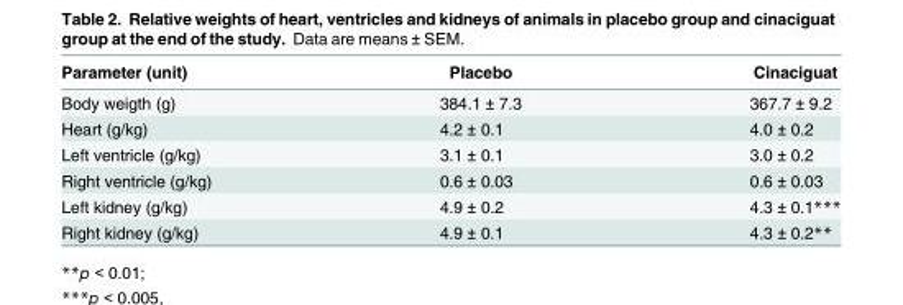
<table><thead><tr><td>Parameter (unit)</td><td>Placebo</td><td>Cinaciguat</td></tr></thead><tbody><tr><td>Body weigth (g)</td><td>384.1 ± 7.3</td><td>367.7 ± 9.2</td></tr><tr><td>Heart (g/kg)</td><td>4.2 ± 0.1</td><td>4.0 ± 0.2</td></tr><tr><td>Left ventricle (g/kg)</td><td>3.1 ± 0.1</td><td>3.0 ± 0.2</td></tr><tr><td>Right ventricle (g/kg)</td><td>0.6 ± 0.03</td><td>0.6 ± 0.03</td></tr><tr><td>Left kidney (g/kg)</td><td>4.9 ± 0.2</td><td>4.3 ± 0.1***</td></tr><tr><td>Right kidney (g/kg)</td><td>4.9 ± 0.1</td><td>4.3 ± 0.2**</td></tr></tbody></table>